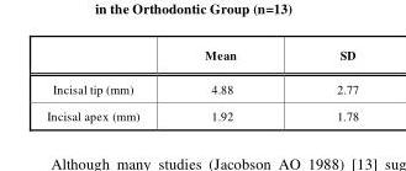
<table><thead><tr><td></td><td>Mean</td><td>SD</td></tr></thead><tbody><tr><td>Incisal tip (mm)</td><td>4.88</td><td>2.77</td></tr><tr><td>Incisal apex (mm)</td><td>1.92</td><td>1.78</td></tr></tbody></table>